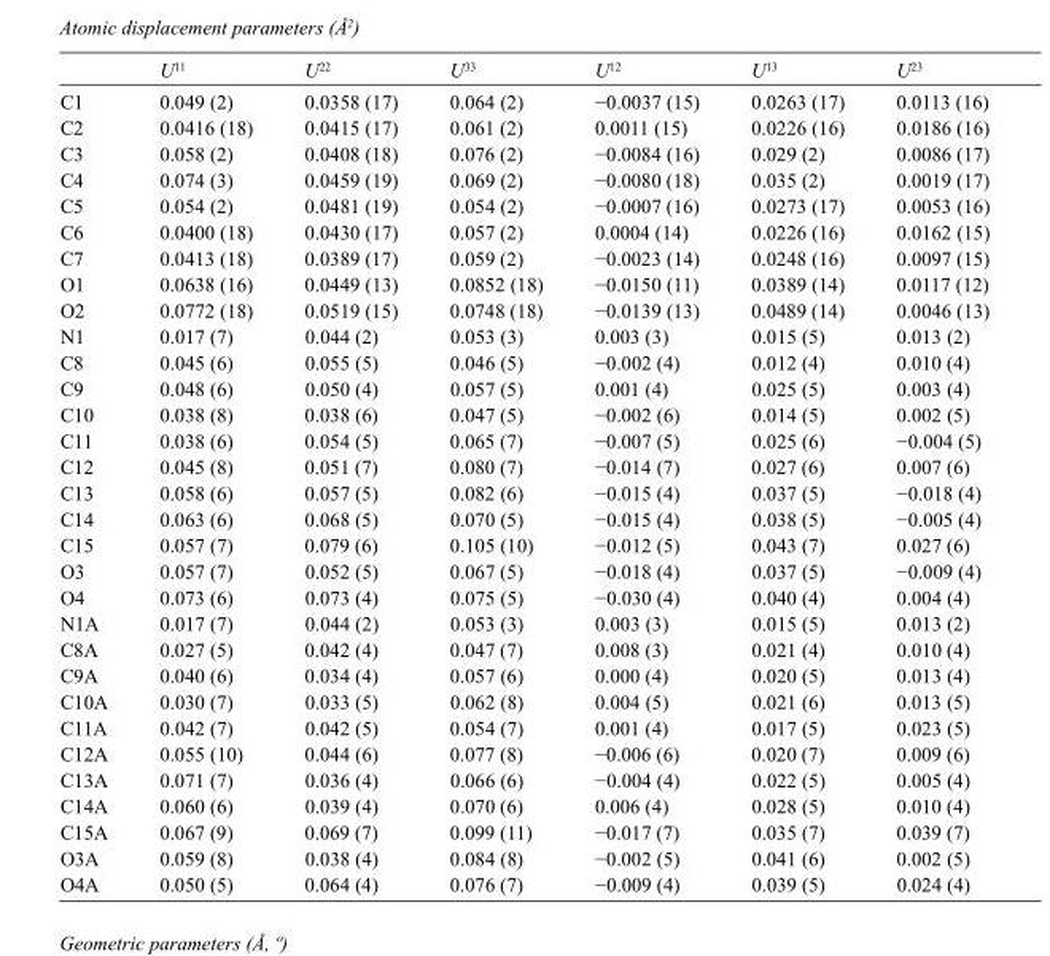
<table><thead><tr><td></td><td>U<sup>11</sup></td><td>U<sup>22</sup></td><td>U<sup>33</sup></td><td>U<sup>12</sup></td><td>U<sup>13</sup></td><td>U<sup>23</sup></td></tr></thead><tbody><tr><td>C1</td><td>0.049 (2)</td><td>0.0358 (17)</td><td>0.064 (2)</td><td>−0.0037 (15)</td><td>0.0263 (17)</td><td>0.0113 (16)</td></tr><tr><td>C2</td><td>0.0416 (18)</td><td>0.0415 (17)</td><td>0.061 (2)</td><td>0.0011 (15)</td><td>0.0226 (16)</td><td>0.0186 (16)</td></tr><tr><td>C3</td><td>0.058 (2)</td><td>0.0408 (18)</td><td>0.076 (2)</td><td>−0.0084 (16)</td><td>0.029 (2)</td><td>0.0086 (17)</td></tr><tr><td>C4</td><td>0.074 (3)</td><td>0.0459 (19)</td><td>0.069 (2)</td><td>−0.0080 (18)</td><td>0.035 (2)</td><td>0.0019 (17)</td></tr><tr><td>C5</td><td>0.054 (2)</td><td>0.0481 (19)</td><td>0.054 (2)</td><td>−0.0007 (16)</td><td>0.0273 (17)</td><td>0.0053 (16)</td></tr><tr><td>C6</td><td>0.0400 (18)</td><td>0.0430 (17)</td><td>0.057 (2)</td><td>0.0004 (14)</td><td>0.0226 (16)</td><td>0.0162 (15)</td></tr><tr><td>C7</td><td>0.0413 (18)</td><td>0.0389 (17)</td><td>0.059 (2)</td><td>−0.0023 (14)</td><td>0.0248 (16)</td><td>0.0097 (15)</td></tr><tr><td>O1</td><td>0.0638 (16)</td><td>0.0449 (13)</td><td>0.0852 (18)</td><td>−0.0150 (11)</td><td>0.0389 (14)</td><td>0.0117 (12)</td></tr><tr><td>O2</td><td>0.0772 (18)</td><td>0.0519 (15)</td><td>0.0748 (18)</td><td>−0.0139 (13)</td><td>0.0489 (14)</td><td>0.0046 (13)</td></tr><tr><td>N1</td><td>0.017 (7)</td><td>0.044 (2)</td><td>0.053 (3)</td><td>0.003 (3)</td><td>0.015 (5)</td><td>0.013 (2)</td></tr><tr><td>C8</td><td>0.045 (6)</td><td>0.055 (5)</td><td>0.046 (5)</td><td>−0.002 (4)</td><td>0.012 (4)</td><td>0.010 (4)</td></tr><tr><td>C9</td><td>0.048 (6)</td><td>0.050 (4)</td><td>0.057 (5)</td><td>0.001 (4)</td><td>0.025 (5)</td><td>0.003 (4)</td></tr><tr><td>C10</td><td>0.038 (8)</td><td>0.038 (6)</td><td>0.047 (5)</td><td>−0.002 (6)</td><td>0.014 (5)</td><td>0.002 (5)</td></tr><tr><td>C11</td><td>0.038 (6)</td><td>0.054 (5)</td><td>0.065 (7)</td><td>−0.007 (5)</td><td>0.025 (6)</td><td>−0.004 (5)</td></tr><tr><td>C12</td><td>0.045 (8)</td><td>0.051 (7)</td><td>0.080 (7)</td><td>−0.014 (7)</td><td>0.027 (6)</td><td>0.007 (6)</td></tr><tr><td>C13</td><td>0.058 (6)</td><td>0.057 (5)</td><td>0.082 (6)</td><td>−0.015 (4)</td><td>0.037 (5)</td><td>−0.018 (4)</td></tr><tr><td>C14</td><td>0.063 (6)</td><td>0.068 (5)</td><td>0.070 (5)</td><td>−0.015 (4)</td><td>0.038 (5)</td><td>−0.005 (4)</td></tr><tr><td>C15</td><td>0.057 (7)</td><td>0.079 (6)</td><td>0.105 (10)</td><td>−0.012 (5)</td><td>0.043 (7)</td><td>0.027 (6)</td></tr><tr><td>O3</td><td>0.057 (7)</td><td>0.052 (5)</td><td>0.067 (5)</td><td>−0.018 (4)</td><td>0.037 (5)</td><td>−0.009 (4)</td></tr><tr><td>O4</td><td>0.073 (6)</td><td>0.073 (4)</td><td>0.075 (5)</td><td>−0.030 (4)</td><td>0.040 (4)</td><td>0.004 (4)</td></tr><tr><td>N1A</td><td>0.017 (7)</td><td>0.044 (2)</td><td>0.053 (3)</td><td>0.003 (3)</td><td>0.015 (5)</td><td>0.013 (2)</td></tr><tr><td>C8A</td><td>0.027 (5)</td><td>0.042 (4)</td><td>0.047 (7)</td><td>0.008 (3)</td><td>0.021 (4)</td><td>0.010 (4)</td></tr><tr><td>C9A</td><td>0.040 (6)</td><td>0.034 (4)</td><td>0.057 (6)</td><td>0.000 (4)</td><td>0.020 (5)</td><td>0.013 (4)</td></tr><tr><td>C10A</td><td>0.030 (7)</td><td>0.033 (5)</td><td>0.062 (8)</td><td>0.004 (5)</td><td>0.021 (6)</td><td>0.013 (5)</td></tr><tr><td>C11A</td><td>0.042 (7)</td><td>0.042 (5)</td><td>0.054 (7)</td><td>0.001 (4)</td><td>0.017 (5)</td><td>0.023 (5)</td></tr><tr><td>C12A</td><td>0.055 (10)</td><td>0.044 (6)</td><td>0.077 (8)</td><td>−0.006 (6)</td><td>0.020 (7)</td><td>0.009 (6)</td></tr><tr><td>C13A</td><td>0.071 (7)</td><td>0.036 (4)</td><td>0.066 (6)</td><td>−0.004 (4)</td><td>0.022 (5)</td><td>0.005 (4)</td></tr><tr><td>C14A</td><td>0.060 (6)</td><td>0.039 (4)</td><td>0.070 (6)</td><td>0.006 (4)</td><td>0.028 (5)</td><td>0.010 (4)</td></tr><tr><td>C15A</td><td>0.067 (9)</td><td>0.069 (7)</td><td>0.099 (11)</td><td>−0.017 (7)</td><td>0.035 (7)</td><td>0.039 (7)</td></tr><tr><td>O3A</td><td>0.059 (8)</td><td>0.038 (4)</td><td>0.084 (8)</td><td>−0.002 (5)</td><td>0.041 (6)</td><td>0.002 (5)</td></tr><tr><td>O4A</td><td>0.050 (5)</td><td>0.064 (4)</td><td>0.076 (7)</td><td>−0.009 (4)</td><td>0.039 (5)</td><td>0.024 (4)</td></tr></tbody></table>